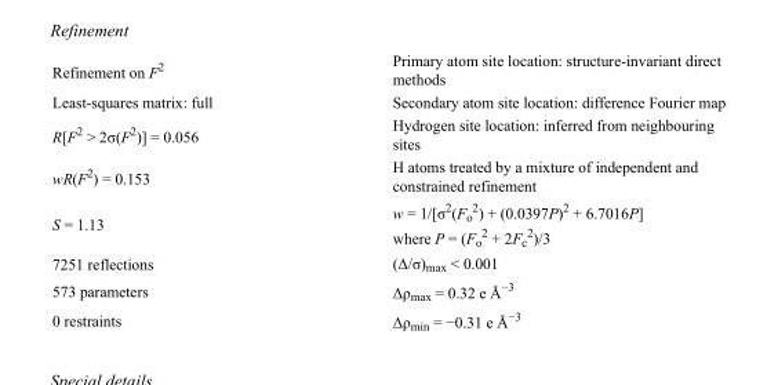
<table><tbody><tr><td>Refinement on F<sup>2</sup></td><td>Primary atom site location: structure-invariant direct methods</td></tr><tr><td>Least-squares matrix: full</td><td>Secondary atom site location: difference Fourier map</td></tr><tr><td>R[F<sup>2</sup> &gt; 2σ(F<sup>2</sup>)] = 0.056</td><td>Hydrogen site location: inferred from neighbouring sites</td></tr><tr><td>wR(F<sup>2</sup>) = 0.153</td><td>H atoms treated by a mixture of independent and constrained refinement</td></tr><tr><td>S = 1.13</td><td>w = 1/[σ<sup>2</sup>(F<sub>o</sub> <sup>2</sup>) + (0.0397P)<sup>2</sup> + 6.7016P] where P = (F<sub>o</sub> <sup>2</sup> + 2F<sub>c</sub> <sup>2</sup>)/3</td></tr><tr><td>7251 reflections</td><td>(Δ/σ)<sub>max</sub> &lt; 0.001</td></tr><tr><td>573 parameters</td><td>Δρ<sub>max</sub> = 0.32 e Å<sup>−3</sup></td></tr><tr><td>0 restraints</td><td>Δρ<sub>min</sub> = −0.31 e Å<sup>−3</sup></td></tr></tbody></table>